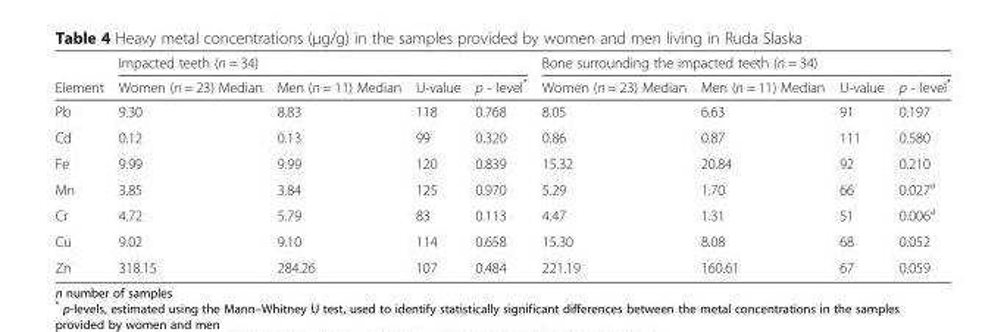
<table><thead><tr><td rowspan="2">Element</td><td colspan="4">Impacted teeth (n = 34)</td><td colspan="4">Bone surrounding the impacted teeth (n = 34)</td></tr><tr><td>Women (n = 23) Median</td><td>Men (n = 11) Median</td><td>U-value</td><td>p - level*</td><td>Women (n = 23) Median</td><td>Men (n = 11) Median</td><td>U-value</td><td>p - level*</td></tr></thead><tbody><tr><td>Pb</td><td>9.30</td><td>8.83</td><td>118</td><td>0.768</td><td>8.05</td><td>6.63</td><td>91</td><td>0.197</td></tr><tr><td>Cd</td><td>0.12</td><td>0.13</td><td>99</td><td>0.320</td><td>0.86</td><td>0.87</td><td>111</td><td>0.580</td></tr><tr><td>Fe</td><td>9.99</td><td>9.99</td><td>120</td><td>0.839</td><td>15.32</td><td>20.84</td><td>92</td><td>0.210</td></tr><tr><td>Mn</td><td>3.85</td><td>3.84</td><td>125</td><td>0.970</td><td>5.29</td><td>1.70</td><td>66</td><td>0.027<sup>a</sup></td></tr><tr><td>Cr</td><td>4.72</td><td>5.79</td><td>83</td><td>0.113</td><td>4.47</td><td>1.31</td><td>51</td><td>0.006<sup>a</sup></td></tr><tr><td>Cu</td><td>9.02</td><td>9.10</td><td>114</td><td>0.658</td><td>15.30</td><td>8.08</td><td>68</td><td>0.052</td></tr><tr><td>Zn</td><td>318.15</td><td>284.26</td><td>107</td><td>0.484</td><td>221.19</td><td>160.61</td><td>67</td><td>0.059</td></tr></tbody></table>